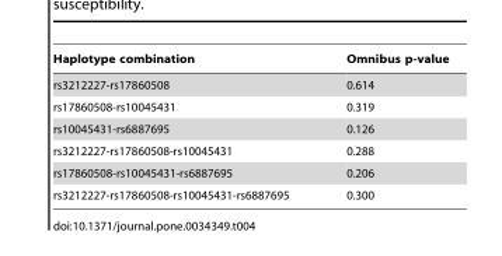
<table><thead><tr><td>Haplotype combination</td><td>Omnibus p-value</td></tr></thead><tbody><tr><td>rs3212227-rs17860508</td><td>0.614</td></tr><tr><td>rs17860508-rs10045431</td><td>0.319</td></tr><tr><td>rs10045431-rs6887695</td><td>0.126</td></tr><tr><td>rs3212227-rs17860508-rs10045431</td><td>0.288</td></tr><tr><td>rs17860508-rs10045431-rs6887695</td><td>0.206</td></tr><tr><td>rs3212227-rs17860508-rs10045431-rs6887695</td><td>0.300</td></tr></tbody></table>